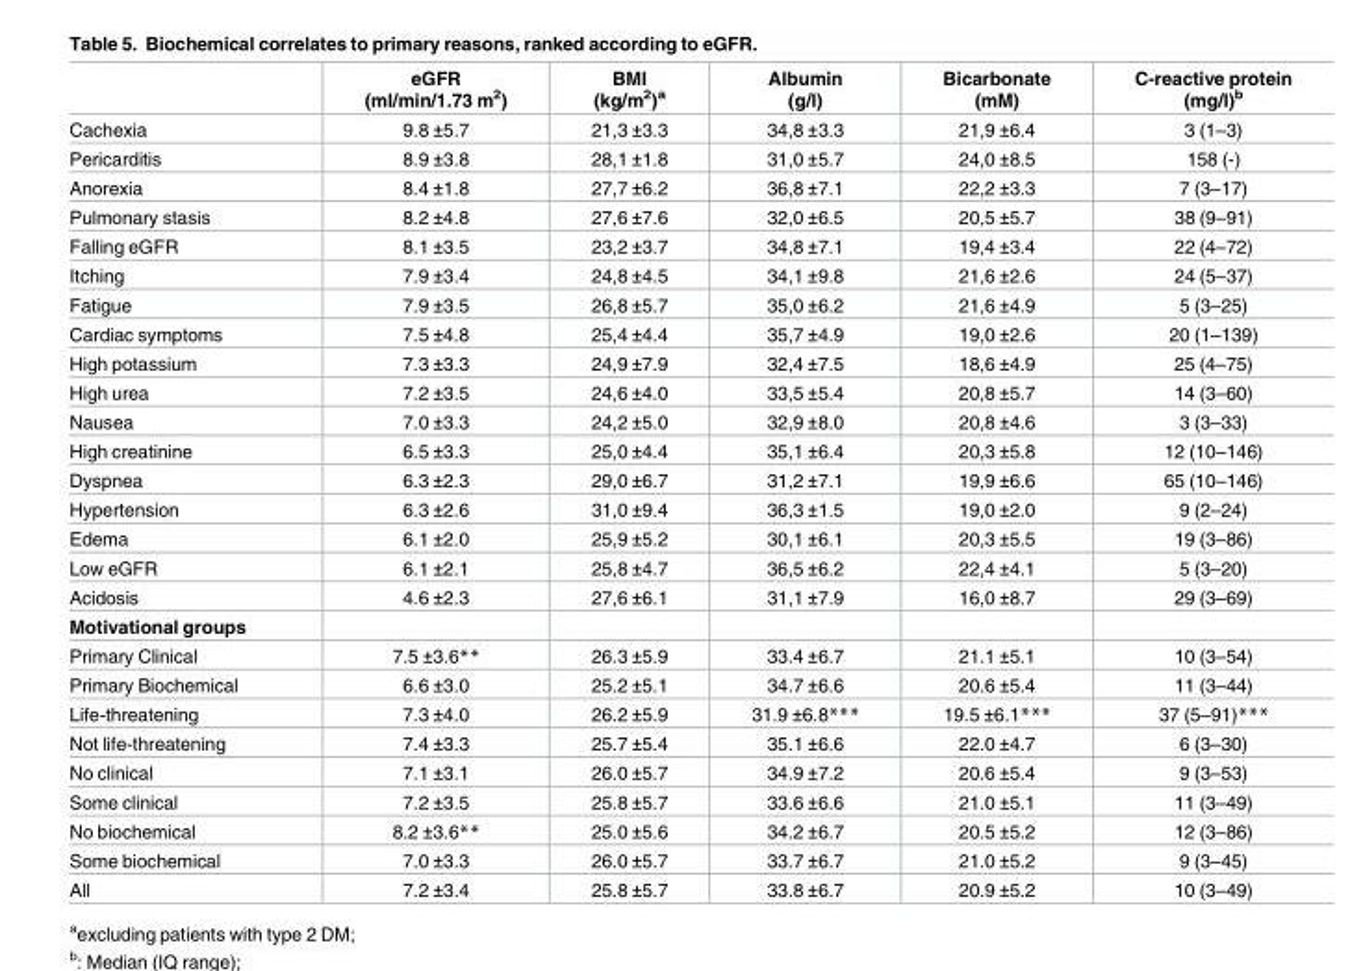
<table><thead><tr><td></td><td>eGFR (ml/min/1.73 m<sup>2</sup>)</td><td>BMI (kg/m<sup>2</sup>)<sup>a</sup></td><td>Albumin (g/l)</td><td>Bicarbonate (mM)</td><td>C-reactive protein (mg/l)<sup>b</sup></td></tr></thead><tbody><tr><td>Cachexia</td><td>9.8 ±5.7</td><td>21,3 ±3.3</td><td>34,8 ±3.3</td><td>21,9 ±6.4</td><td>3 (1–3)</td></tr><tr><td>Pericarditis</td><td>8.9 ±3.8</td><td>28,1 ±1.8</td><td>31,0 ±5.7</td><td>24,0 ±8.5</td><td>158 (-)</td></tr><tr><td>Anorexia</td><td>8.4 ±1.8</td><td>27,7 ±6.2</td><td>36,8 ±7.1</td><td>22,2 ±3.3</td><td>7 (3–17)</td></tr><tr><td>Pulmonary stasis</td><td>8.2 ±4.8</td><td>27,6 ±7.6</td><td>32,0 ±6.5</td><td>20,5 ±5.7</td><td>38 (9–91)</td></tr><tr><td>Falling eGFR</td><td>8.1 ±3.5</td><td>23,2 ±3.7</td><td>34,8 ±7.1</td><td>19,4 ±3.4</td><td>22 (4–72)</td></tr><tr><td>Itching</td><td>7.9 ±3.4</td><td>24,8 ±4.5</td><td>34,1 ±9.8</td><td>21,6 ±2.6</td><td>24 (5–37)</td></tr><tr><td>Fatigue</td><td>7.9 ±3.5</td><td>26,8 ±5.7</td><td>35,0 ±6.2</td><td>21,6 ±4.9</td><td>5 (3–25)</td></tr><tr><td>Cardiac symptoms</td><td>7.5 ±4.8</td><td>25,4 ±4.4</td><td>35,7 ±4.9</td><td>19,0 ±2.6</td><td>20 (1–139)</td></tr><tr><td>High potassium</td><td>7.3 ±3.3</td><td>24,9 ±7.9</td><td>32,4 ±7.5</td><td>18,6 ±4.9</td><td>25 (4–75)</td></tr><tr><td>High urea</td><td>7.2 ±3.5</td><td>24,6 ±4.0</td><td>33,5 ±5.4</td><td>20,8 ±5.7</td><td>14 (3–60)</td></tr><tr><td>Nausea</td><td>7.0 ±3.3</td><td>24,2 ±5.0</td><td>32,9 ±8.0</td><td>20,8 ±4.6</td><td>3 (3–33)</td></tr><tr><td>High creatinine</td><td>6.5 ±3.3</td><td>25,0 ±4.4</td><td>35,1 ±6.4</td><td>20,3 ±5.8</td><td>12 (10–146)</td></tr><tr><td>Dyspnea</td><td>6.3 ±2.3</td><td>29,0 ±6.7</td><td>31,2 ±7.1</td><td>19,9 ±6.6</td><td>65 (10–146)</td></tr><tr><td>Hypertension</td><td>6.3 ±2.6</td><td>31,0 ±9.4</td><td>36,3 ±1.5</td><td>19,0 ±2.0</td><td>9 (2–24)</td></tr><tr><td>Edema</td><td>6.1 ±2.0</td><td>25,9 ±5.2</td><td>30,1 ±6.1</td><td>20,3 ±5.5</td><td>19 (3–86)</td></tr><tr><td>Low eGFR</td><td>6.1 ±2.1</td><td>25,8 ±4.7</td><td>36,5 ±6.2</td><td>22,4 ±4.1</td><td>5 (3–20)</td></tr><tr><td>Acidosis</td><td>4.6 ±2.3</td><td>27,6 ±6.1</td><td>31,1 ±7.9</td><td>16,0 ±8.7</td><td>29 (3–69)</td></tr><tr><td colspan="6">Motivational groups</td></tr><tr><td>Primary Clinical</td><td>7.5 ±3.6**</td><td>26.3 ±5.9</td><td>33.4 ±6.7</td><td>21.1 ±5.1</td><td>10 (3–54)</td></tr><tr><td>Primary Biochemical</td><td>6.6 ±3.0</td><td>25.2 ±5.1</td><td>34.7 ±6.6</td><td>20.6 ±5.4</td><td>11 (3–44)</td></tr><tr><td>Life-threatening</td><td>7.3 ±4.0</td><td>26.2 ±5.9</td><td>31.9 ±6.8***</td><td>19.5 ±6.1***</td><td>37 (5–91)***</td></tr><tr><td>Not life-threatening</td><td>7.4 ±3.3</td><td>25.7 ±5.4</td><td>35.1 ±6.6</td><td>22.0 ±4.7</td><td>6 (3–30)</td></tr><tr><td>No clinical</td><td>7.1 ±3.1</td><td>26.0 ±5.7</td><td>34.9 ±7.2</td><td>20.6 ±5.4</td><td>9 (3–53)</td></tr><tr><td>Some clinical</td><td>7.2 ±3.5</td><td>25.8 ±5.7</td><td>33.6 ±6.6</td><td>21.0 ±5.1</td><td>11 (3–49)</td></tr><tr><td>No biochemical</td><td>8.2 ±3.6**</td><td>25.0 ±5.6</td><td>34.2 ±6.7</td><td>20.5 ±5.2</td><td>12 (3–86)</td></tr><tr><td>Some biochemical</td><td>7.0 ±3.3</td><td>26.0 ±5.7</td><td>33.7 ±6.7</td><td>21.0 ±5.2</td><td>9 (3–45)</td></tr><tr><td>All</td><td>7.2 ±3.4</td><td>25.8 ±5.7</td><td>33.8 ±6.7</td><td>20.9 ±5.2</td><td>10 (3–49)</td></tr></tbody></table>